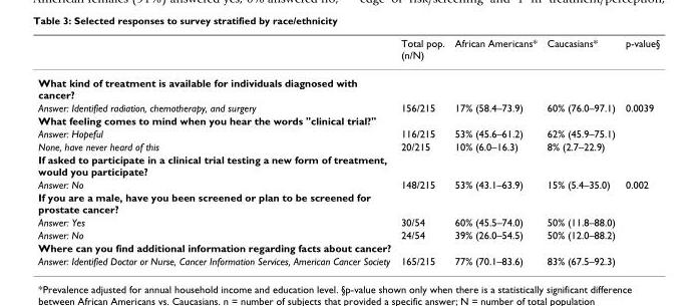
<table><thead><tr><td></td><td>Total pop. (n/N)</td><td>African Americans*</td><td>Caucasians*</td><td>p-value§</td></tr></thead><tbody><tr><td colspan="5">What kind of treatment is available for individuals diagnosed with cancer?</td></tr><tr><td>Answer: Identified radiation, chemotherapy, and surgery</td><td>156/215</td><td>17% (58.4–73.9)</td><td>60% (76.0–97.1)</td><td>0.0039</td></tr><tr><td colspan="5">What feeling comes to mind when you hear the words &quot;clinical trial?&quot;</td></tr><tr><td>Answer: Hopeful</td><td>116/215</td><td>53% (45.6–61.2)</td><td>62% (45.9–75.1)</td><td></td></tr><tr><td>None, have never heard of this</td><td>20/215</td><td>10% (6.0–16.3)</td><td>8% (2.7–22.9)</td><td></td></tr><tr><td colspan="5">If asked to participate in a clinical trial testing a new form of treatment, would you participate?</td></tr><tr><td>Answer: No</td><td>148/215</td><td>53% (43.1–63.9)</td><td>15% (5.4–35.0)</td><td>0.002</td></tr><tr><td colspan="5">If you are a male, have you been screened or plan to be screened for prostate cancer?</td></tr><tr><td>Answer: Yes</td><td>30/54</td><td>60% (45.5–74.0)</td><td>50% (11.8–88.0)</td><td></td></tr><tr><td>Answer: No</td><td>24/54</td><td>39% (26.0–54.5)</td><td>50% (12.0–88.2)</td><td></td></tr><tr><td colspan="5">Where can you find additional information regarding facts about cancer?</td></tr><tr><td>Answer: Identified Doctor or Nurse, Cancer Information Services, American Cancer Society</td><td>165/215</td><td>77% (70.1–83.6)</td><td>83% (67.5–92.3)</td><td></td></tr></tbody></table>